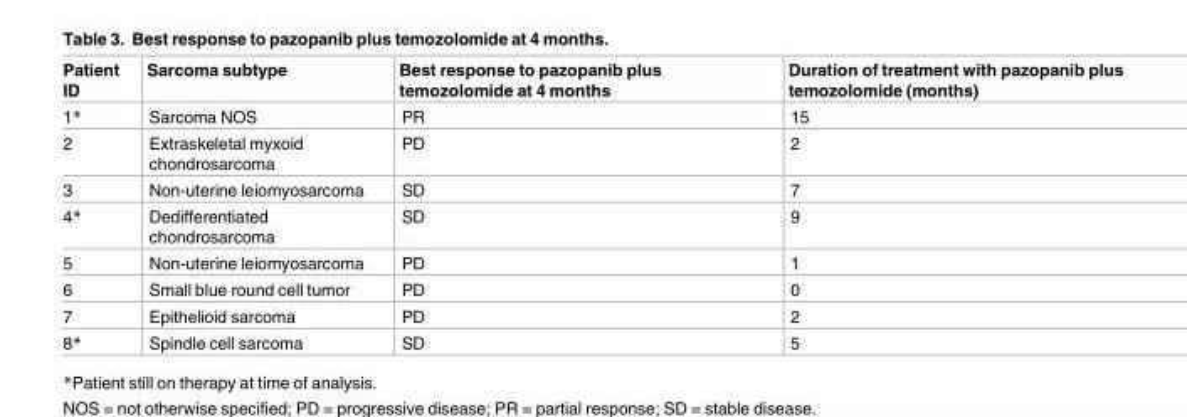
<table><thead><tr><td>Patient ID</td><td>Sarcoma subtype</td><td>Best response to pazopanib plus temozolomide at 4 months</td><td>Duration of treatment with pazopanib plus temozolomide (months)</td></tr></thead><tbody><tr><td>1*</td><td>Sarcoma NOS</td><td>PR</td><td>15</td></tr><tr><td>2</td><td>Extraskeletal myxoid chondrosarcoma</td><td>PD</td><td>2</td></tr><tr><td>3</td><td>Non-uterine leiomyosarcoma</td><td>SD</td><td>7</td></tr><tr><td>4*</td><td>Dedifferentiated chondrosarcoma</td><td>SD</td><td>9</td></tr><tr><td>5</td><td>Non-uterine leiomyosarcoma</td><td>PD</td><td>1</td></tr><tr><td>6</td><td>Small blue round cell tumor</td><td>PD</td><td>0</td></tr><tr><td>7</td><td>Epithelioid sarcoma</td><td>PD</td><td>2</td></tr><tr><td>8*</td><td>Spindle cell sarcoma</td><td>SD</td><td>5</td></tr></tbody></table>